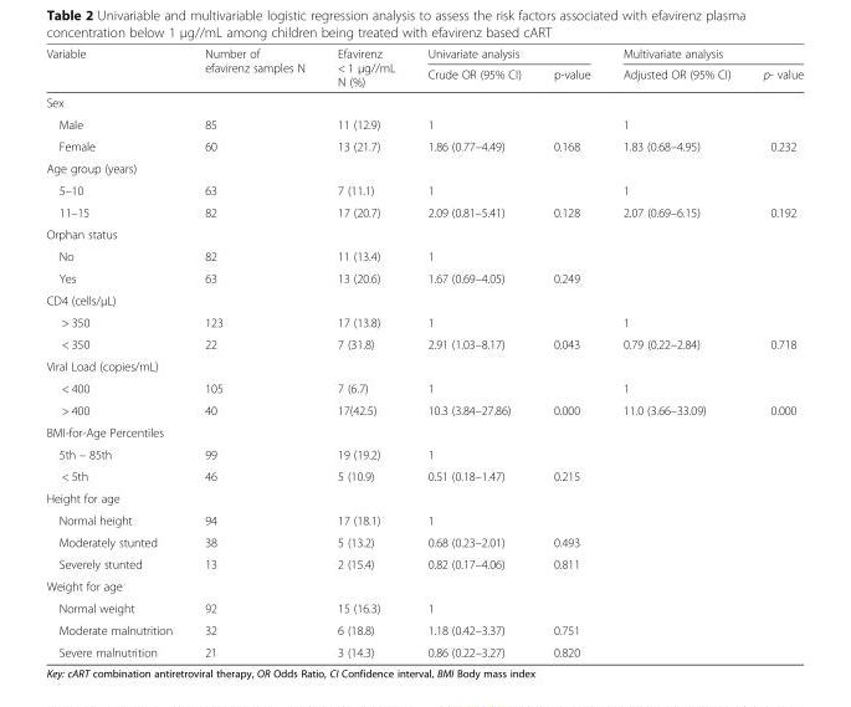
<table><thead><tr><td rowspan="2">Variable</td><td rowspan="2">Number of efavirenz samples N</td><td rowspan="2">Efavirenz &lt; 1 μg//mL N (%)</td><td colspan="2">Univariate analysis</td><td colspan="2">Multivariate analysis</td></tr><tr><td>Crude OR (95% CI)</td><td>p-value</td><td>Adjusted OR (95% CI)</td><td>p- value</td></tr></thead><tbody><tr><td colspan="7">Sex</td></tr><tr><td>Male</td><td>85</td><td>11 (12.9)</td><td>1</td><td></td><td>1</td><td></td></tr><tr><td>Female</td><td>60</td><td>13 (21.7)</td><td>1.86 (0.77–4.49)</td><td>0.168</td><td>1.83 (0.68–4.95)</td><td>0.232</td></tr><tr><td colspan="7">Age group (years)</td></tr><tr><td>5–10</td><td>63</td><td>7 (11.1)</td><td>1</td><td></td><td>1</td><td></td></tr><tr><td>11–15</td><td>82</td><td>17 (20.7)</td><td>2.09 (0.81–5.41)</td><td>0.128</td><td>2.07 (0.69–6.15)</td><td>0.192</td></tr><tr><td colspan="7">Orphan status</td></tr><tr><td>No</td><td>82</td><td>11 (13.4)</td><td>1</td><td></td><td></td><td></td></tr><tr><td>Yes</td><td>63</td><td>13 (20.6)</td><td>1.67 (0.69–4.05)</td><td>0.249</td><td></td><td></td></tr><tr><td colspan="7">CD4 (cells/μL)</td></tr><tr><td>&gt; 350</td><td>123</td><td>17 (13.8)</td><td>1</td><td></td><td>1</td><td></td></tr><tr><td>&lt; 350</td><td>22</td><td>7 (31.8)</td><td>2.91 (1.03–8.17)</td><td>0.043</td><td>0.79 (0.22–2.84)</td><td>0.718</td></tr><tr><td colspan="7">Viral Load (copies/mL)</td></tr><tr><td>&lt; 400</td><td>105</td><td>7 (6.7)</td><td>1</td><td></td><td>1</td><td></td></tr><tr><td>&gt; 400</td><td>40</td><td>17(42.5)</td><td>10.3 (3.84–27.86)</td><td>0.000</td><td>11.0 (3.66–33.09)</td><td>0.000</td></tr><tr><td colspan="7">BMI-for-Age Percentiles</td></tr><tr><td>5th – 85th</td><td>99</td><td>19 (19.2)</td><td>1</td><td></td><td></td><td></td></tr><tr><td>&lt; 5th</td><td>46</td><td>5 (10.9)</td><td>0.51 (0.18–1.47)</td><td>0.215</td><td></td><td></td></tr><tr><td colspan="7">Height for age</td></tr><tr><td>Normal height</td><td>94</td><td>17 (18.1)</td><td>1</td><td></td><td></td><td></td></tr><tr><td>Moderately stunted</td><td>38</td><td>5 (13.2)</td><td>0.68 (0.23–2.01)</td><td>0.493</td><td></td><td></td></tr><tr><td>Severely stunted</td><td>13</td><td>2 (15.4)</td><td>0.82 (0.17–4.06)</td><td>0.811</td><td></td><td></td></tr><tr><td colspan="7">Weight for age</td></tr><tr><td>Normal weight</td><td>92</td><td>15 (16.3)</td><td>1</td><td></td><td></td><td></td></tr><tr><td>Moderate malnutrition</td><td>32</td><td>6 (18.8)</td><td>1.18 (0.42–3.37)</td><td>0.751</td><td></td><td></td></tr><tr><td>Severe malnutrition</td><td>21</td><td>3 (14.3)</td><td>0.86 (0.22–3.27)</td><td>0.820</td><td></td><td></td></tr></tbody></table>